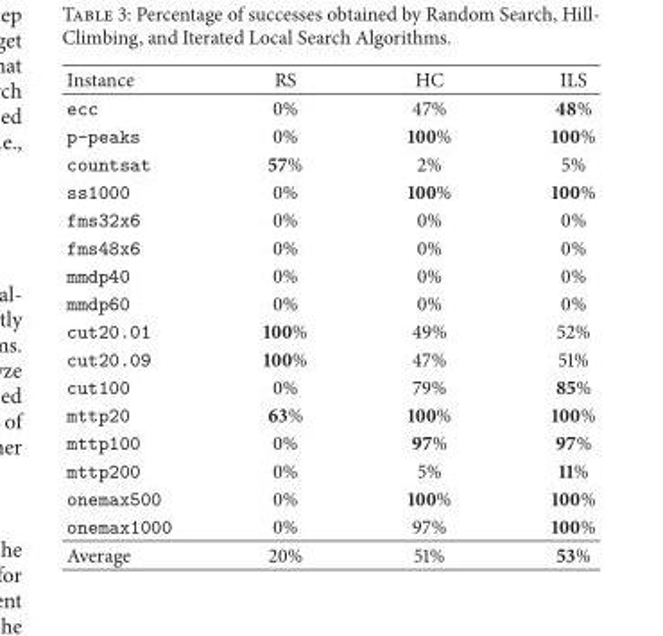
<table><thead><tr><td>Instance</td><td>RS</td><td>HC</td><td>ILS</td></tr></thead><tbody><tr><td>ecc</td><td>0%</td><td>47%</td><td>48%</td></tr><tr><td>p-peaks</td><td>0%</td><td>100%</td><td>100%</td></tr><tr><td>countsat</td><td>57%</td><td>2%</td><td>5%</td></tr><tr><td>ss1000</td><td>0%</td><td>100%</td><td>100%</td></tr><tr><td>fms32x6</td><td>0%</td><td>0%</td><td>0%</td></tr><tr><td>fms48x6</td><td>0%</td><td>0%</td><td>0%</td></tr><tr><td>mmdp40</td><td>0%</td><td>0%</td><td>0%</td></tr><tr><td>mmdp60</td><td>0%</td><td>0%</td><td>0%</td></tr><tr><td>cut20.01</td><td>100%</td><td>49%</td><td>52%</td></tr><tr><td>cut20.09</td><td>100%</td><td>47%</td><td>51%</td></tr><tr><td>cut100</td><td>0%</td><td>79%</td><td>85%</td></tr><tr><td>mttp20</td><td>63%</td><td>100%</td><td>100%</td></tr><tr><td>mttp100</td><td>0%</td><td>97%</td><td>97%</td></tr><tr><td>mttp200</td><td>0%</td><td>5%</td><td>11%</td></tr><tr><td>onemax500</td><td>0%</td><td>100%</td><td>100%</td></tr><tr><td>onemax1000</td><td>0%</td><td>97%</td><td>100%</td></tr><tr><td>Average</td><td>20%</td><td>51%</td><td>53%</td></tr></tbody></table>